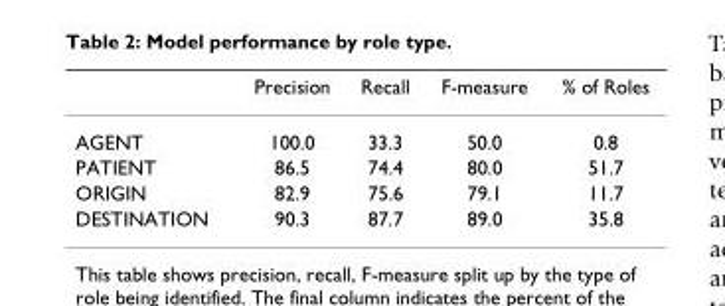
<table><thead><tr><td></td><td>Precision</td><td>Recall</td><td>F-measure</td><td>% of Roles</td></tr></thead><tbody><tr><td>AGENT</td><td>100.0</td><td>33.3</td><td>50.0</td><td>0.8</td></tr><tr><td>PATIENT</td><td>86.5</td><td>74.4</td><td>80.0</td><td>51.7</td></tr><tr><td>ORIGIN</td><td>82.9</td><td>75.6</td><td>79.1</td><td>11.7</td></tr><tr><td>DESTINATION</td><td>90.3</td><td>87.7</td><td>89.0</td><td>35.8</td></tr></tbody></table>